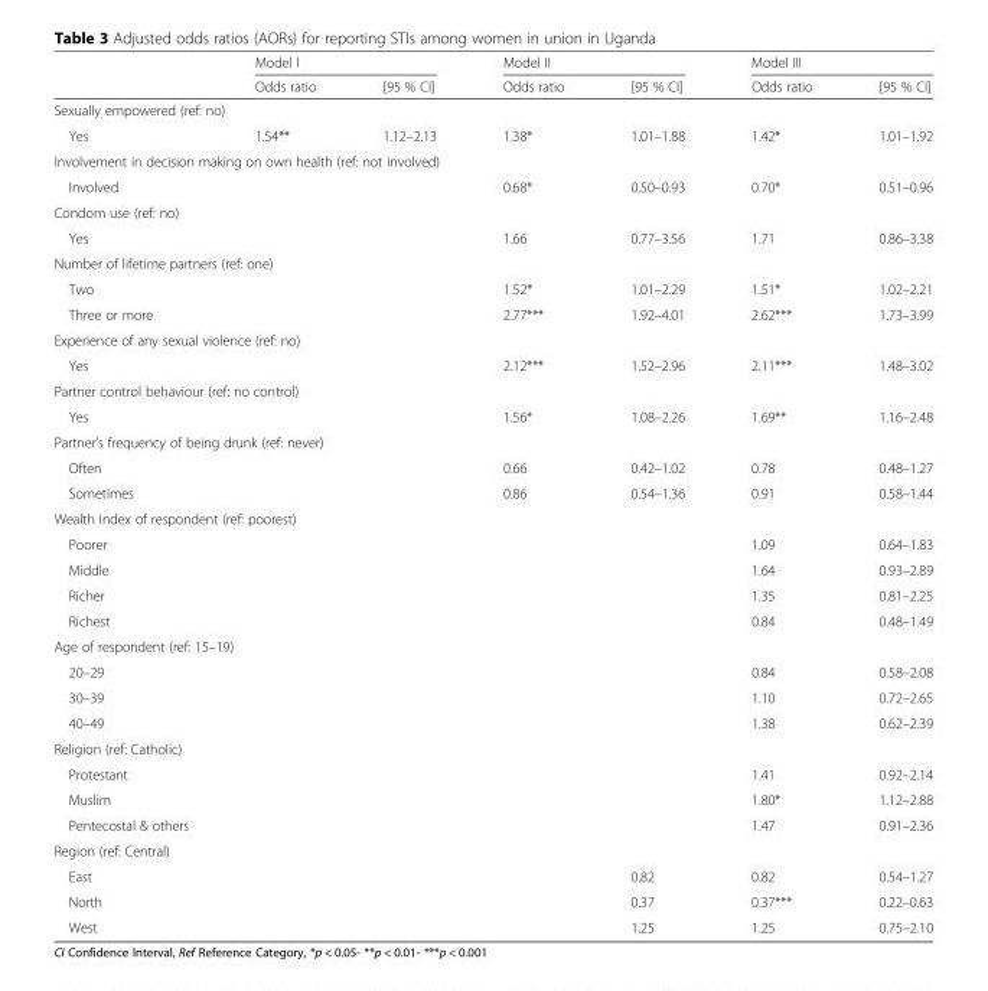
<table><thead><tr><td rowspan="2"></td><td colspan="2">Model I</td><td colspan="2">Model II</td><td colspan="2">Model III</td></tr><tr><td>Odds ratio</td><td>[95 % CI]</td><td>Odds ratio</td><td>[95 % CI]</td><td>Odds ratio</td><td>[95 % CI]</td></tr></thead><tbody><tr><td colspan="7">Sexually empowered (ref: no)</td></tr><tr><td>Yes</td><td>1.54**</td><td>1.12–2.13</td><td>1.38*</td><td>1.01–1.88</td><td>1.42*</td><td>1.01–1.92</td></tr><tr><td colspan="7">Involvement in decision making on own health (ref: not involved)</td></tr><tr><td>Involved</td><td></td><td></td><td>0.68*</td><td>0.50–0.93</td><td>0.70*</td><td>0.51–0.96</td></tr><tr><td colspan="7">Condom use (ref: no)</td></tr><tr><td>Yes</td><td></td><td></td><td>1.66</td><td>0.77–3.56</td><td>1.71</td><td>0.86–3.38</td></tr><tr><td colspan="7">Number of lifetime partners (ref: one)</td></tr><tr><td>Two</td><td></td><td></td><td>1.52*</td><td>1.01–2.29</td><td>1.51*</td><td>1.02–2.21</td></tr><tr><td>Three or more</td><td></td><td></td><td>2.77***</td><td>1.92–4.01</td><td>2.62***</td><td>1.73–3.99</td></tr><tr><td colspan="7">Experience of any sexual violence (ref: no)</td></tr><tr><td>Yes</td><td></td><td></td><td>2.12***</td><td>1.52–2.96</td><td>2.11***</td><td>1.48–3.02</td></tr><tr><td colspan="7">Partner control behaviour (ref: no control)</td></tr><tr><td>Yes</td><td></td><td></td><td>1.56*</td><td>1.08–2.26</td><td>1.69**</td><td>1.16–2.48</td></tr><tr><td colspan="7">Partner’s frequency of being drunk (ref: never)</td></tr><tr><td>Often</td><td></td><td></td><td>0.66</td><td>0.42–1.02</td><td>0.78</td><td>0.48–1.27</td></tr><tr><td>Sometimes</td><td></td><td></td><td>0.86</td><td>0.54–1.36</td><td>0.91</td><td>0.58–1.44</td></tr><tr><td colspan="7">Wealth Index of respondent (ref: poorest)</td></tr><tr><td>Poorer</td><td></td><td></td><td></td><td></td><td>1.09</td><td>0.64–1.83</td></tr><tr><td>Middle</td><td></td><td></td><td></td><td></td><td>1.64</td><td>0.93–2.89</td></tr><tr><td>Richer</td><td></td><td></td><td></td><td></td><td>1.35</td><td>0.81–2.25</td></tr><tr><td>Richest</td><td></td><td></td><td></td><td></td><td>0.84</td><td>0.48–1.49</td></tr><tr><td colspan="7">Age of respondent (ref: 15–19)</td></tr><tr><td>20–29</td><td></td><td></td><td></td><td></td><td>0.84</td><td>0.58–2.08</td></tr><tr><td>30–39</td><td></td><td></td><td></td><td></td><td>1.10</td><td>0.72–2.65</td></tr><tr><td>40–49</td><td></td><td></td><td></td><td></td><td>1.38</td><td>0.62–2.39</td></tr><tr><td colspan="7">Religion (ref: Catholic)</td></tr><tr><td>Protestant</td><td></td><td></td><td></td><td></td><td>1.41</td><td>0.92–2.14</td></tr><tr><td>Muslim</td><td></td><td></td><td></td><td></td><td>1.80*</td><td>1.12–2.88</td></tr><tr><td>Pentecostal &amp; others</td><td></td><td></td><td></td><td></td><td>1.47</td><td>0.91–2.36</td></tr><tr><td colspan="7">Region (ref: Central)</td></tr><tr><td>East</td><td></td><td></td><td></td><td>0.82</td><td>0.82</td><td>0.54–1.27</td></tr><tr><td>North</td><td></td><td></td><td></td><td>0.37</td><td>0.37***</td><td>0.22–0.63</td></tr><tr><td>West</td><td></td><td></td><td></td><td>1.25</td><td>1.25</td><td>0.75–2.10</td></tr></tbody></table>